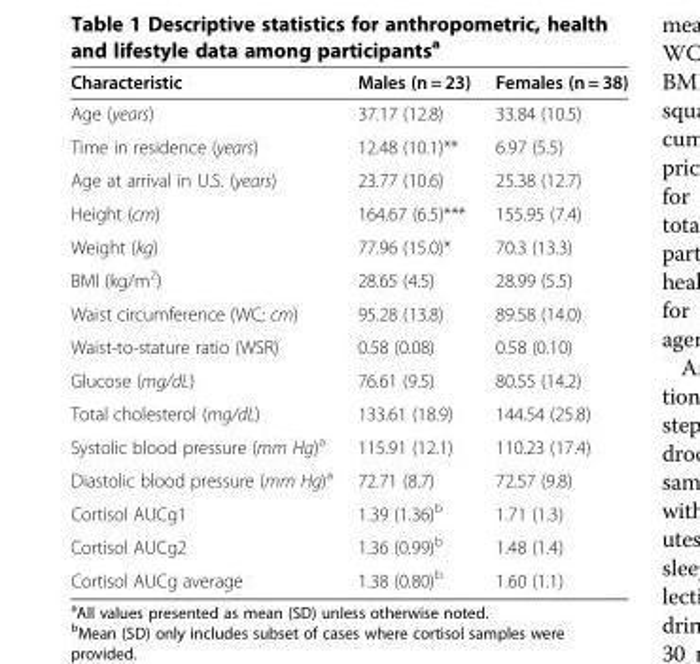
<table><thead><tr><td>Characteristic</td><td>Males (n = 23)</td><td>Females (n = 38)</td></tr></thead><tbody><tr><td>Age (years)</td><td>37.17 (12.8)</td><td>33.84 (10.5)</td></tr><tr><td>Time in residence (years)</td><td>12.48 (10.1)**</td><td>6.97 (5.5)</td></tr><tr><td>Age at arrival in U.S. (years)</td><td>23.77 (10.6)</td><td>25.38 (12.7)</td></tr><tr><td>Height (cm)</td><td>164.67 (6.5)***</td><td>155.95 (7.4)</td></tr><tr><td>Weight (kg)</td><td>77.96 (15.0)*</td><td>70.3 (13.3)</td></tr><tr><td>BMI (kg/m<sup>2</sup>)</td><td>28.65 (4.5)</td><td>28.99 (5.5)</td></tr><tr><td>Waist circumference (WC; cm)</td><td>95.28 (13.8)</td><td>89.58 (14.0)</td></tr><tr><td>Waist-to-stature ratio (WSR)</td><td>0.58 (0.08)</td><td>0.58 (0.10)</td></tr><tr><td>Glucose (mg/dL)</td><td>76.61 (9.5)</td><td>80.55 (14.2)</td></tr><tr><td>Total cholesterol (mg/dL)</td><td>133.61 (18.9)</td><td>144.54 (25.8)</td></tr><tr><td>Systolic blood pressure (mm Hg)<sup>a</sup></td><td>115.91 (12.1)</td><td>110.23 (17.4)</td></tr><tr><td>Diastolic blood pressure (mm Hg)<sup>a</sup></td><td>72.71 (8.7)</td><td>72.57 (9.8)</td></tr><tr><td>Cortisol AUCg1</td><td>1.39 (1.36)<sup>b</sup></td><td>1.71 (1.3)</td></tr><tr><td>Cortisol AUCg2</td><td>1.36 (0.99)<sup>b</sup></td><td>1.48 (1.4)</td></tr><tr><td>Cortisol AUCg average</td><td>1.38 (0.80)<sup>b</sup></td><td>1.60 (1.1)</td></tr></tbody></table>